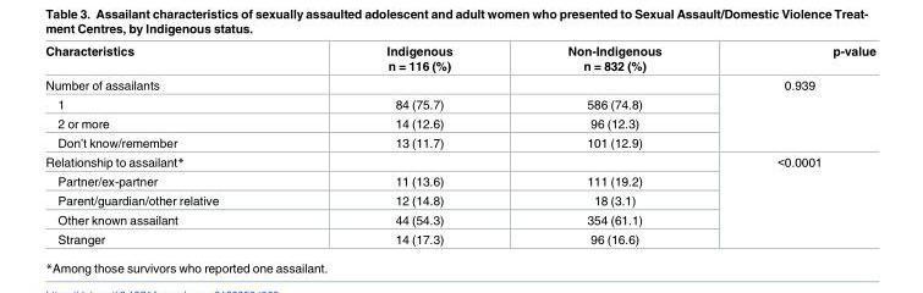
<table><thead><tr><td>Characteristics</td><td>Indigenous n = 116 (%)</td><td>Non-Indigenous n = 832 (%)</td><td>p-value</td></tr></thead><tbody><tr><td colspan="3">Number of assailants</td><td rowspan="4">0.939</td></tr><tr><td>1</td><td>84 (75.7)</td><td>586 (74.8)</td></tr><tr><td>2 or more</td><td>14 (12.6)</td><td>96 (12.3)</td></tr><tr><td>Don’t know/remember</td><td>13 (11.7)</td><td>101 (12.9)</td></tr><tr><td colspan="3">Relationship to assailant*</td><td rowspan="5">&lt;0.0001</td></tr><tr><td>Partner/ex-partner</td><td>11 (13.6)</td><td>111 (19.2)</td></tr><tr><td>Parent/guardian/other relative</td><td>12 (14.8)</td><td>18 (3.1)</td></tr><tr><td>Other known assailant</td><td>44 (54.3)</td><td>354 (61.1)</td></tr><tr><td>Stranger</td><td>14 (17.3)</td><td>96 (16.6)</td></tr></tbody></table>